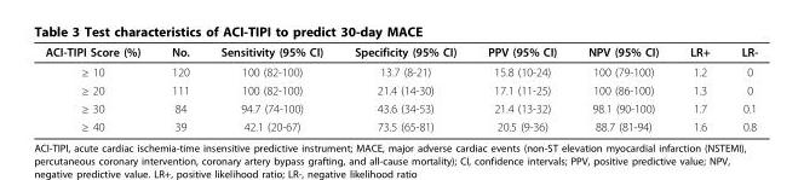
<table><thead><tr><td>ACI-TIPI Score (%)</td><td>No.</td><td>Sensitivity (95% CI)</td><td>Specificity (95% CI)</td><td>PPV (95% CI)</td><td>NPV (95% CI)</td><td>LR+</td><td>LR-</td></tr></thead><tbody><tr><td>≥ 10</td><td>120</td><td>100 (82-100)</td><td>13.7 (8-21)</td><td>15.8 (10-24)</td><td>100 (79-100)</td><td>1.2</td><td>0</td></tr><tr><td>≥ 20</td><td>111</td><td>100 (82-100)</td><td>21.4 (14-30)</td><td>17.1 (11-25)</td><td>100 (86-100)</td><td>1.3</td><td>0</td></tr><tr><td>≥ 30</td><td>84</td><td>94.7 (74-100)</td><td>43.6 (34-53)</td><td>21.4 (13-32)</td><td>98.1 (90-100)</td><td>1.7</td><td>0.1</td></tr><tr><td>≥ 40</td><td>39</td><td>42.1 (20-67)</td><td>73.5 (65-81)</td><td>20.5 (9-36)</td><td>88.7 (81-94)</td><td>1.6</td><td>0.8</td></tr></tbody></table>